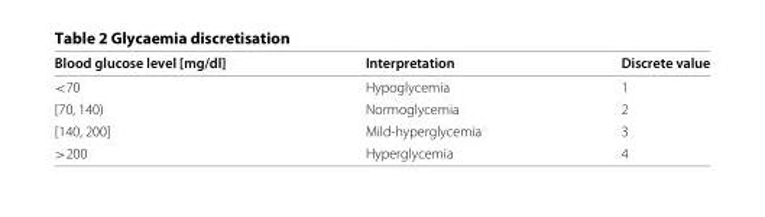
<table><thead><tr><td>Blood glucose level [mg/dl]</td><td>Interpretation</td><td>Discrete value</td></tr></thead><tbody><tr><td>&lt;70</td><td>Hypoglycemia</td><td>1</td></tr><tr><td>[70, 140)</td><td>Normoglycemia</td><td>2</td></tr><tr><td>[140, 200]</td><td>Mild-hyperglycemia</td><td>3</td></tr><tr><td>&gt;200</td><td>Hyperglycemia</td><td>4</td></tr></tbody></table>